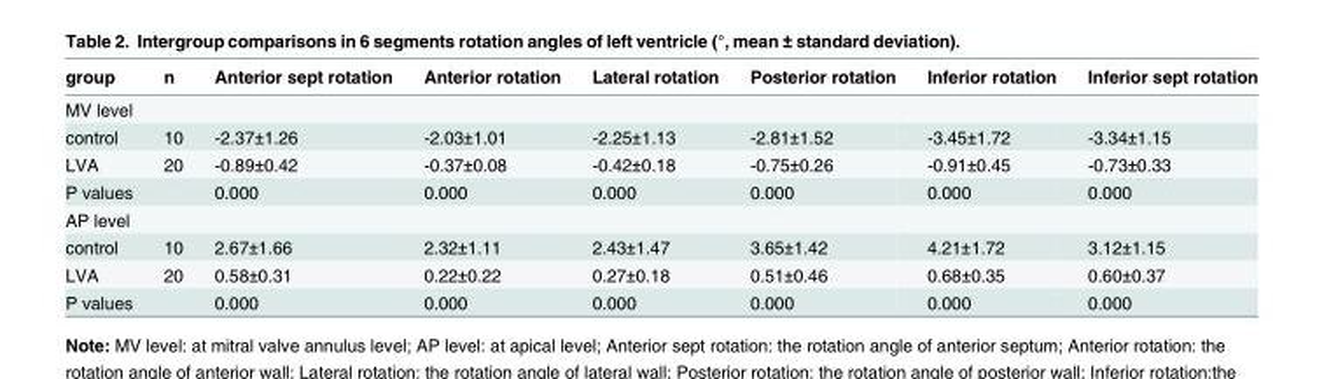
<table><thead><tr><td>group</td><td>n</td><td>Anterior sept rotation</td><td>Anterior rotation</td><td>Lateral rotation</td><td>Posterior rotation</td><td>Inferior rotation</td><td>Inferior sept rotation</td></tr></thead><tbody><tr><td colspan="8">MV level</td></tr><tr><td>control</td><td>10</td><td>-2.37±1.26</td><td>-2.03±1.01</td><td>-2.25±1.13</td><td>-2.81±1.52</td><td>-3.45±1.72</td><td>-3.34±1.15</td></tr><tr><td>LVA</td><td>20</td><td>-0.89±0.42</td><td>-0.37±0.08</td><td>-0.42±0.18</td><td>-0.75±0.26</td><td>-0.91±0.45</td><td>-0.73±0.33</td></tr><tr><td>P values</td><td></td><td>0.000</td><td>0.000</td><td>0.000</td><td>0.000</td><td>0.000</td><td>0.000</td></tr><tr><td colspan="8">AP level</td></tr><tr><td>control</td><td>10</td><td>2.67±1.66</td><td>2.32±1.11</td><td>2.43±1.47</td><td>3.65±1.42</td><td>4.21±1.72</td><td>3.12±1.15</td></tr><tr><td>LVA</td><td>20</td><td>0.58±0.31</td><td>0.22±0.22</td><td>0.27±0.18</td><td>0.51±0.46</td><td>0.68±0.35</td><td>0.60±0.37</td></tr><tr><td>P values</td><td></td><td>0.000</td><td>0.000</td><td>0.000</td><td>0.000</td><td>0.000</td><td>0.000</td></tr></tbody></table>